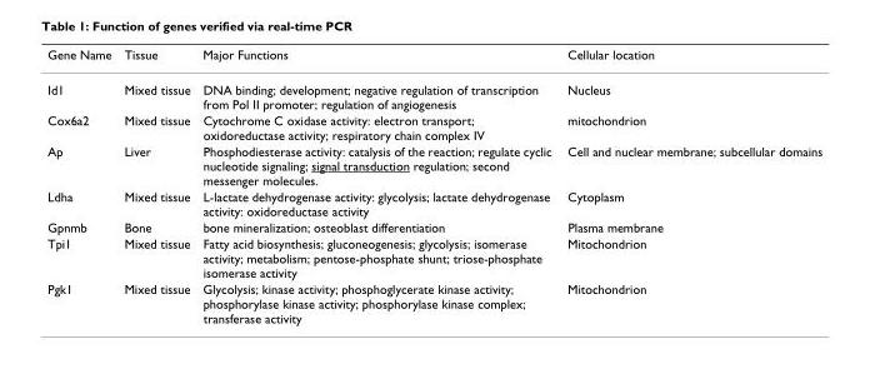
<table><thead><tr><td>Gene Name</td><td>Tissue</td><td>Major Functions</td><td>Cellular location</td></tr></thead><tbody><tr><td>Id1</td><td>Mixed tissue</td><td>DNA binding; development; negative regulation of transcription from Pol II promoter; regulation of angiogenesis</td><td>Nucleus</td></tr><tr><td>Cox6a2</td><td>Mixed tissue</td><td>Cytochrome C oxidase activity: electron transport; oxidoreductase activity; respiratory chain complex IV</td><td>mitochondrion</td></tr><tr><td>Ap</td><td>Liver</td><td>Phosphodiesterase activity: catalysis of the reaction; regulate cyclic nucleotide signaling; signal transduction regulation; second messenger molecules.</td><td>Cell and nuclear membrane; subcellular domains</td></tr><tr><td>Ldha</td><td>Mixed tissue</td><td>L-lactate dehydrogenase activity: glycolysis; lactate dehydrogenase activity: oxidoreductase activity</td><td>Cytoplasm</td></tr><tr><td>Gpnmb</td><td>Bone</td><td>bone mineralization; osteoblast differentiation</td><td>Plasma membrane</td></tr><tr><td>Tpi1</td><td>Mixed tissue</td><td>Fatty acid biosynthesis; gluconeogenesis; glycolysis; isomerase activity; metabolism; pentose-phosphate shunt; triose-phosphate isomerase activity</td><td>Mitochondrion</td></tr><tr><td>Pgk1</td><td>Mixed tissue</td><td>Glycolysis; kinase activity; phosphoglycerate kinase activity; phosphorylase kinase activity; phosphorylase kinase complex; transferase activity</td><td>Mitochondrion</td></tr></tbody></table>